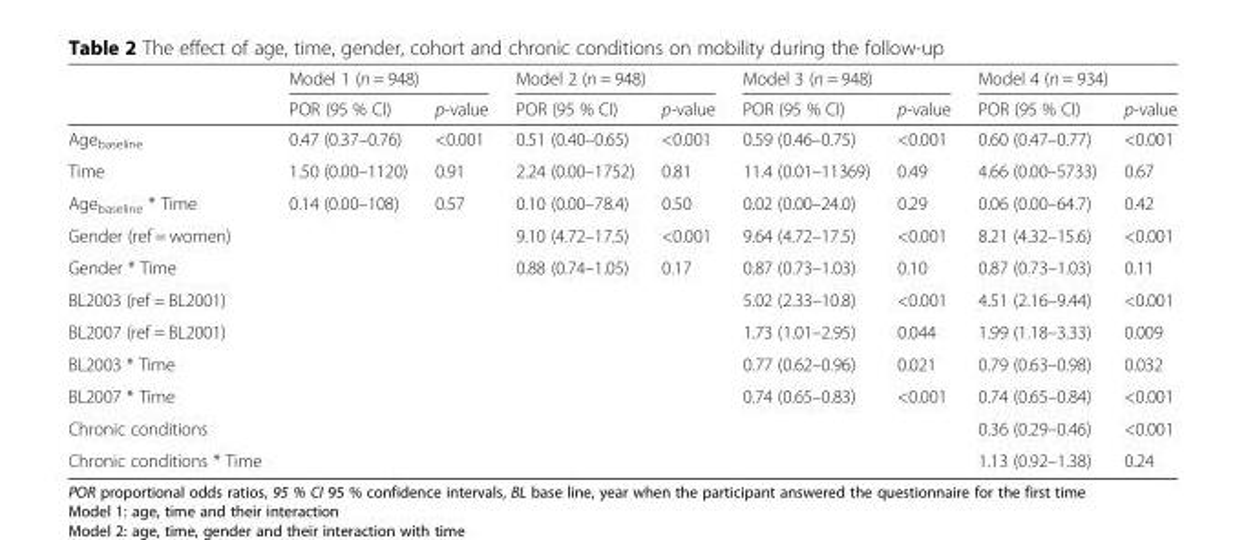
<table><thead><tr><td rowspan="2"></td><td colspan="2">Model 1 (n = 948)</td><td colspan="2">Model 2 (n = 948)</td><td colspan="2">Model 3 (n = 948)</td><td colspan="2">Model 4 (n = 934)</td></tr><tr><td>POR (95 % CI)</td><td>p-value</td><td>POR (95 % CI)</td><td>p-value</td><td>POR (95 % CI)</td><td>p-value</td><td>POR (95 % CI)</td><td>p-value</td></tr></thead><tbody><tr><td>Age<sub>baseline</sub></td><td>0.47 (0.37–0.76)</td><td>&lt;0.001</td><td>0.51 (0.40–0.65)</td><td>&lt;0.001</td><td>0.59 (0.46–0.75)</td><td>&lt;0.001</td><td>0.60 (0.47–0.77)</td><td>&lt;0.001</td></tr><tr><td>Time</td><td>1.50 (0.00–1120)</td><td>0.91</td><td>2.24 (0.00–1752)</td><td>0.81</td><td>11.4 (0.01–11369)</td><td>0.49</td><td>4.66 (0.00–5733)</td><td>0.67</td></tr><tr><td>Age<sub>baseline</sub> * Time</td><td>0.14 (0.00–108)</td><td>0.57</td><td>0.10 (0.00–78.4)</td><td>0.50</td><td>0.02 (0.00–24.0)</td><td>0.29</td><td>0.06 (0.00–64.7)</td><td>0.42</td></tr><tr><td>Gender (ref = women)</td><td></td><td></td><td>9.10 (4.72–17.5)</td><td>&lt;0.001</td><td>9.64 (4.72–17.5)</td><td>&lt;0.001</td><td>8.21 (4.32–15.6)</td><td>&lt;0.001</td></tr><tr><td>Gender * Time</td><td></td><td></td><td>0.88 (0.74–1.05)</td><td>0.17</td><td>0.87 (0.73–1.03)</td><td>0.10</td><td>0.87 (0.73–1.03)</td><td>0.11</td></tr><tr><td>BL2003 (ref = BL2001)</td><td></td><td></td><td></td><td></td><td>5.02 (2.33–10.8)</td><td>&lt;0.001</td><td>4.51 (2.16–9.44)</td><td>&lt;0.001</td></tr><tr><td>BL2007 (ref = BL2001)</td><td></td><td></td><td></td><td></td><td>1.73 (1.01–2.95)</td><td>0.044</td><td>1.99 (1.18–3.33)</td><td>0.009</td></tr><tr><td>BL2003 * Time</td><td></td><td></td><td></td><td></td><td>0.77 (0.62–0.96)</td><td>0.021</td><td>0.79 (0.63–0.98)</td><td>0.032</td></tr><tr><td>BL2007 * Time</td><td></td><td></td><td></td><td></td><td>0.74 (0.65–0.83)</td><td>&lt;0.001</td><td>0.74 (0.65–0.84)</td><td>&lt;0.001</td></tr><tr><td>Chronic conditions</td><td></td><td></td><td></td><td></td><td></td><td></td><td>0.36 (0.29–0.46)</td><td>&lt;0.001</td></tr><tr><td>Chronic conditions * Time</td><td></td><td></td><td></td><td></td><td></td><td></td><td>1.13 (0.92–1.38)</td><td>0.24</td></tr></tbody></table>